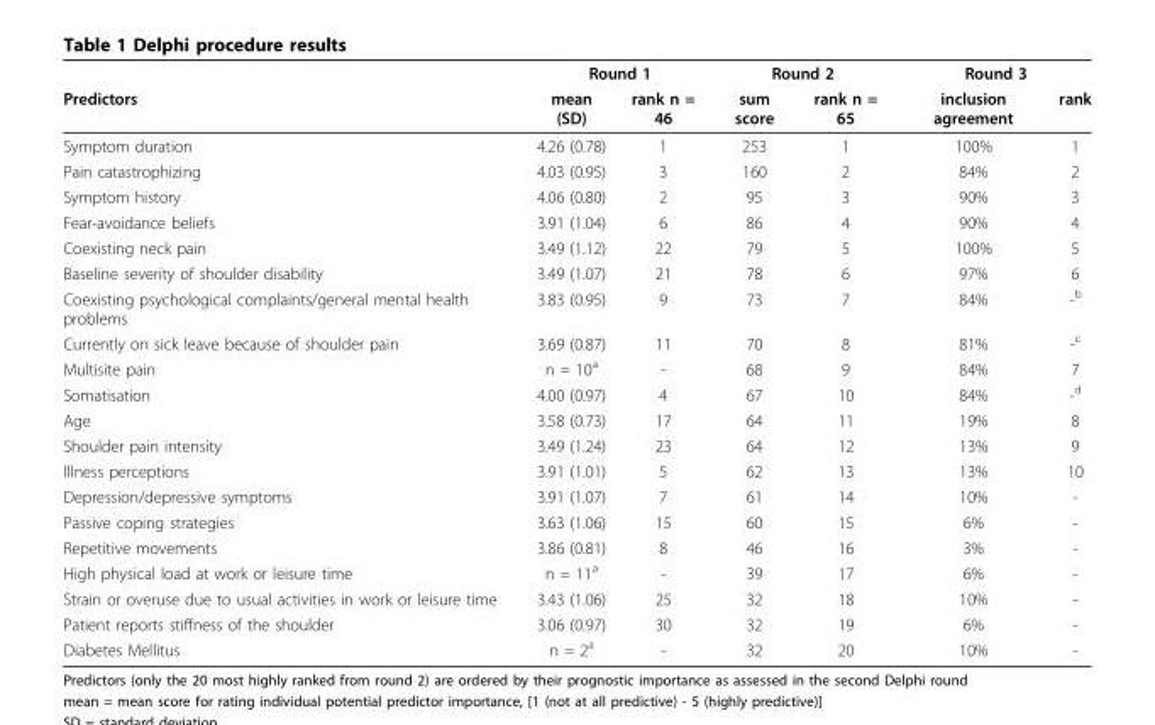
<table><thead><tr><td rowspan="2">Predictors</td><td colspan="2">Round 1</td><td colspan="2">Round 2</td><td colspan="2">Round 3</td></tr><tr><td>mean (SD)</td><td>rank n = 46</td><td>sum score</td><td>rank n = 65</td><td>inclusion agreement</td><td>rank</td></tr></thead><tbody><tr><td>Symptom duration</td><td>4.26 (0.78)</td><td>1</td><td>253</td><td>1</td><td>100%</td><td>1</td></tr><tr><td>Pain catastrophizing</td><td>4.03 (0.95)</td><td>3</td><td>160</td><td>2</td><td>84%</td><td>2</td></tr><tr><td>Symptom history</td><td>4.06 (0.80)</td><td>2</td><td>95</td><td>3</td><td>90%</td><td>3</td></tr><tr><td>Fear-avoidance beliefs</td><td>3.91 (1.04)</td><td>6</td><td>86</td><td>4</td><td>90%</td><td>4</td></tr><tr><td>Coexisting neck pain</td><td>3.49 (1.12)</td><td>22</td><td>79</td><td>5</td><td>100%</td><td>5</td></tr><tr><td>Baseline severity of shoulder disability</td><td>3.49 (1.07)</td><td>21</td><td>78</td><td>6</td><td>97%</td><td>6</td></tr><tr><td>Coexisting psychological complaints/general mental health problems</td><td>3.83 (0.95)</td><td>9</td><td>73</td><td>7</td><td>84%</td><td>-<sup>b</sup></td></tr><tr><td>Currently on sick leave because of shoulder pain</td><td>3.69 (0.87)</td><td>11</td><td>70</td><td>8</td><td>81%</td><td>-<sup>c</sup></td></tr><tr><td>Multisite pain</td><td>n = 10<sup>a</sup></td><td>-</td><td>68</td><td>9</td><td>84%</td><td>7</td></tr><tr><td>Somatisation</td><td>4.00 (0.97)</td><td>4</td><td>67</td><td>10</td><td>84%</td><td>-<sup>d</sup></td></tr><tr><td>Age</td><td>3.58 (0.73)</td><td>17</td><td>64</td><td>11</td><td>19%</td><td>8</td></tr><tr><td>Shoulder pain intensity</td><td>3.49 (1.24)</td><td>23</td><td>64</td><td>12</td><td>13%</td><td>9</td></tr><tr><td>Illness perceptions</td><td>3.91 (1.01)</td><td>5</td><td>62</td><td>13</td><td>13%</td><td>10</td></tr><tr><td>Depression/depressive symptoms</td><td>3.91 (1.07)</td><td>7</td><td>61</td><td>14</td><td>10%</td><td>-</td></tr><tr><td>Passive coping strategies</td><td>3.63 (1.06)</td><td>15</td><td>60</td><td>15</td><td>6%</td><td>-</td></tr><tr><td>Repetitive movements</td><td>3.86 (0.81)</td><td>8</td><td>46</td><td>16</td><td>3%</td><td>-</td></tr><tr><td>High physical load at work or leisure time</td><td>n = 11<sup>a</sup></td><td>-</td><td>39</td><td>17</td><td>6%</td><td>-</td></tr><tr><td>Strain or overuse due to usual activities in work or leisure time</td><td>3.43 (1.06)</td><td>25</td><td>32</td><td>18</td><td>10%</td><td>-</td></tr><tr><td>Patient reports stiffness of the shoulder</td><td>3.06 (0.97)</td><td>30</td><td>32</td><td>19</td><td>6%</td><td>-</td></tr><tr><td>Diabetes Mellitus</td><td>n = 2<sup>a</sup></td><td>-</td><td>32</td><td>20</td><td>10%</td><td>-</td></tr></tbody></table>